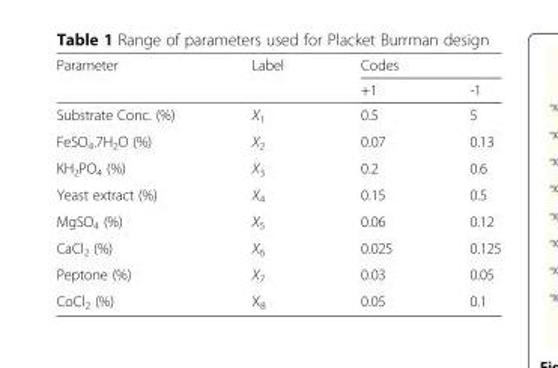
<table><thead><tr><td rowspan="2">Parameter</td><td rowspan="2">Label</td><td colspan="2">Codes</td></tr><tr><td>+1</td><td>-1</td></tr></thead><tbody><tr><td>Substrate Conc. (%)</td><td>X<sub>1</sub></td><td>0.5</td><td>5</td></tr><tr><td>FeSO<sub>4</sub>.7H<sub>2</sub>O (%)</td><td>X<sub>2</sub></td><td>0.07</td><td>0.13</td></tr><tr><td>KH<sub>2</sub>PO<sub>4</sub> (%)</td><td>X<sub>3</sub></td><td>0.2</td><td>0.6</td></tr><tr><td>Yeast extract (%)</td><td>X<sub>4</sub></td><td>0.15</td><td>0.5</td></tr><tr><td>MgSO<sub>4</sub> (%)</td><td>X<sub>5</sub></td><td>0.06</td><td>0.12</td></tr><tr><td>CaCl<sub>2</sub> (%)</td><td>X<sub>6</sub></td><td>0.025</td><td>0.125</td></tr><tr><td>Peptone (%)</td><td>X<sub>7</sub></td><td>0.03</td><td>0.05</td></tr><tr><td>CoCl<sub>2</sub> (%)</td><td>X<sub>8</sub></td><td>0.05</td><td>0.1</td></tr></tbody></table>